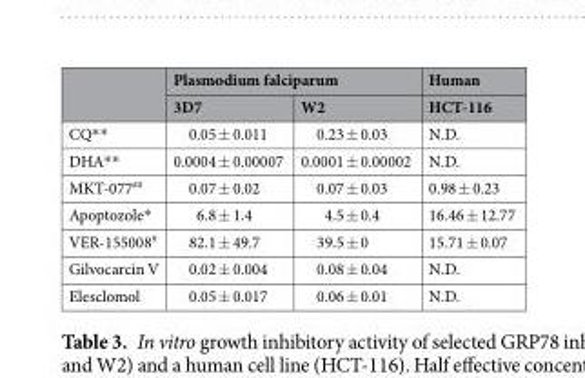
<table><thead><tr><td rowspan="2"></td><td colspan="2">Plasmodium falciparum</td><td rowspan="2">Human HCT-116</td></tr><tr><td>3D7</td><td>W2</td></tr></thead><tbody><tr><td>CQ**</td><td>0.05 ± 0.011</td><td>0.23 ± 0.03</td><td>N.D.</td></tr><tr><td>DHA**</td><td>0.0004 ± 0.00007</td><td>0.0001 ± 0.00002</td><td>N.D.</td></tr><tr><td>MKT-077<sup>##</sup></td><td>0.07 ± 0.02</td><td>0.07 ± 0.03</td><td>0.98 ± 0.23</td></tr><tr><td>Apoptozole*</td><td>6.8 ± 1.4</td><td>4.5 ± 0.4</td><td>16.46 ± 12.77</td></tr><tr><td>VER-155008<sup>#</sup></td><td>82.1 ± 49.7</td><td>39.5 ± 0</td><td>15.71 ± 0.07</td></tr><tr><td>Gilvocarcin V</td><td>0.02 ± 0.004</td><td>0.08 ± 0.04</td><td>N.D.</td></tr><tr><td>Elesclomol</td><td>0.05 ± 0.017</td><td>0.06 ± 0.01</td><td>N.D.</td></tr></tbody></table>